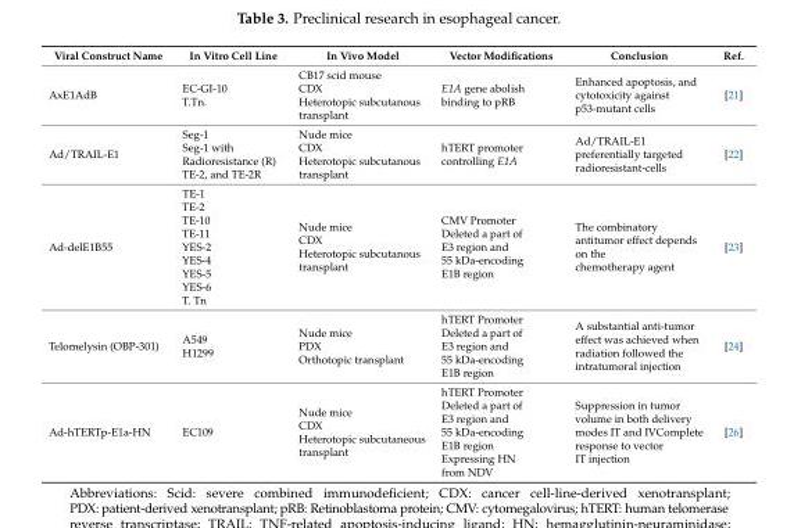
<table><thead><tr><td>Viral Construct Name</td><td>In Vitro Cell Line</td><td>In Vivo Model</td><td>Vector Modifications</td><td>Conclusion</td><td>Ref.</td></tr></thead><tbody><tr><td>AxE1AdB</td><td>EC-GI-10 T.Tn.</td><td>CB17 scid mouse CDX Heterotopic subcutanous transplant</td><td>E1A gene abolish binding to pRB</td><td>Enhanced apoptosis, and cytotoxicity against p53-mutant cells</td><td>[21]</td></tr><tr><td>Ad/TRAIL-E1</td><td>Seg-1 Seg-1 with Radioresistance (R) TE-2, and TE-2R</td><td>Nude mice CDX Heterotopic subcutanous transplant</td><td>hTERT promoter controlling E1A</td><td>Ad/TRAIL-E1 preferentially targeted radioresistant-cells</td><td>[22]</td></tr><tr><td>Ad-delE1B55</td><td>TE-1 TE-2 TE-10 TE-11 YES-2 YES-4 YES-5 YES-6 T. Tn</td><td>Nude mice CDX Heterotopic subcutanous transplant</td><td>CMV Promoter Deleted a part of E3 region and 55 kDa-encoding E1B region</td><td>The combinatory antitumor effect depends on the chemotherapy agent</td><td>[23]</td></tr><tr><td>Telomelysin (OBP-301)</td><td>A549 H1299</td><td>Nude mice PDX Orthotopic transplant</td><td>hTERT Promoter Deleted a part of E3 region and 55 kDa-encoding E1B region</td><td>A substantial anti-tumor effect was achieved when radiation followed the intratumoral injection</td><td>[24]</td></tr><tr><td>Ad-hTERTp-E1a-HN</td><td>EC109</td><td>Nude mice CDX Heterotopic subcutaneous transplant</td><td>hTERT Promoter Deleted a part of E3 region and 55 kDa-encoding E1B region Expressing HN from NDV</td><td>Suppression in tumor volume in both delivery modes IT and IVComplete response to vector IT injection</td><td>[26]</td></tr></tbody></table>